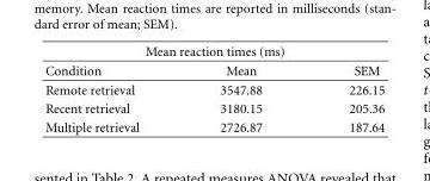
<table><thead><tr><td colspan="3">Mean reaction times (ms)</td></tr><tr><td>Condition</td><td>Mean</td><td>SEM</td></tr></thead><tbody><tr><td>Remote retrieval</td><td>3547.88</td><td>226.15</td></tr><tr><td>Recent retrieval</td><td>3180.15</td><td>205.36</td></tr><tr><td>Multiple retrieval</td><td>2726.87</td><td>187.64</td></tr></tbody></table>